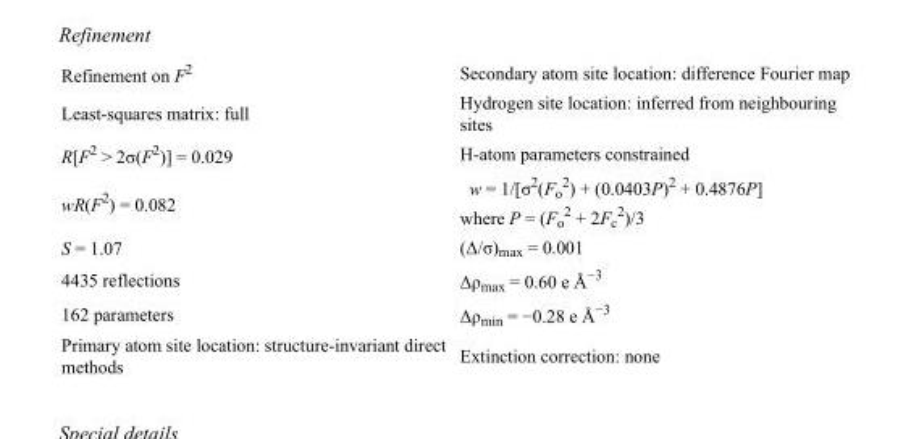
<table><tbody><tr><td>Refinement on F<sup>2</sup></td><td>Secondary atom site location: difference Fourier map</td></tr><tr><td>Least-squares matrix: full</td><td>Hydrogen site location: inferred from neighbouring sites</td></tr><tr><td>R[F<sup>2</sup> &gt; 2σ(F<sup>2</sup>)] = 0.029</td><td>H-atom parameters constrained</td></tr><tr><td>wR(F<sup>2</sup>) = 0.082</td><td>w = 1/[σ<sup>2</sup>(F<sub>o</sub> <sup>2</sup>) + (0.0403P)<sup>2</sup> + 0.4876P] where P = (F<sub>o</sub> <sup>2</sup> + 2F<sub>c</sub> <sup>2</sup>)/3</td></tr><tr><td>S = 1.07</td><td>(Δ/σ)<sub>max</sub> = 0.001</td></tr><tr><td>4435 reflections</td><td>Δρ<sub>max</sub> = 0.60 e Å<sup>−3</sup></td></tr><tr><td>162 parameters</td><td>Δρ<sub>min</sub> = −0.28 e Å<sup>−3</sup></td></tr><tr><td>Primary atom site location: structure-invariant direct methods</td><td>Extinction correction: none</td></tr></tbody></table>